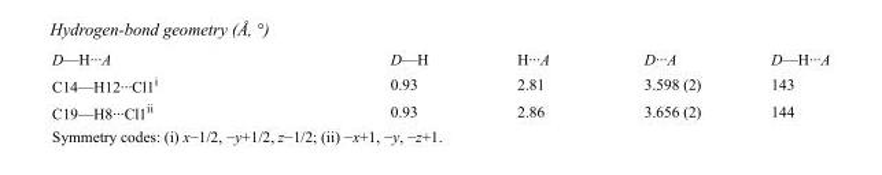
<table><tbody><tr><td>D—H···A</td><td>D—H</td><td>H···A</td><td>D···A</td><td>D—H···A</td></tr><tr><td>C14—H12···Cl1<sup>i</sup></td><td>0.93</td><td>2.81</td><td>3.598 (2)</td><td>143</td></tr><tr><td>C19—H8···Cl1<sup>ii</sup></td><td>0.93</td><td>2.86</td><td>3.656 (2)</td><td>144</td></tr></tbody></table>